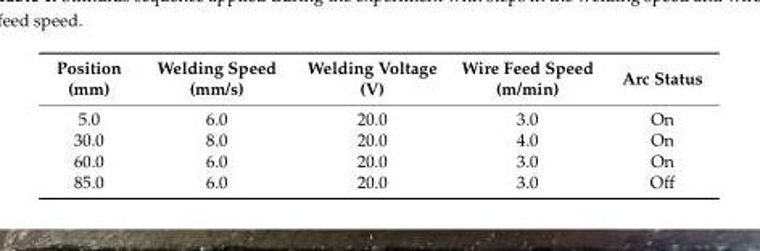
<table><thead><tr><td>Position (mm)</td><td>Welding Speed (mm/s)</td><td>Welding Voltage (V)</td><td>Wire Feed Speed (m/min)</td><td>Arc Status</td></tr></thead><tbody><tr><td>5.0</td><td>6.0</td><td>20.0</td><td>3.0</td><td>On</td></tr><tr><td>30.0</td><td>8.0</td><td>20.0</td><td>4.0</td><td>On</td></tr><tr><td>60.0</td><td>6.0</td><td>20.0</td><td>3.0</td><td>On</td></tr><tr><td>85.0</td><td>6.0</td><td>20.0</td><td>3.0</td><td>Off</td></tr></tbody></table>